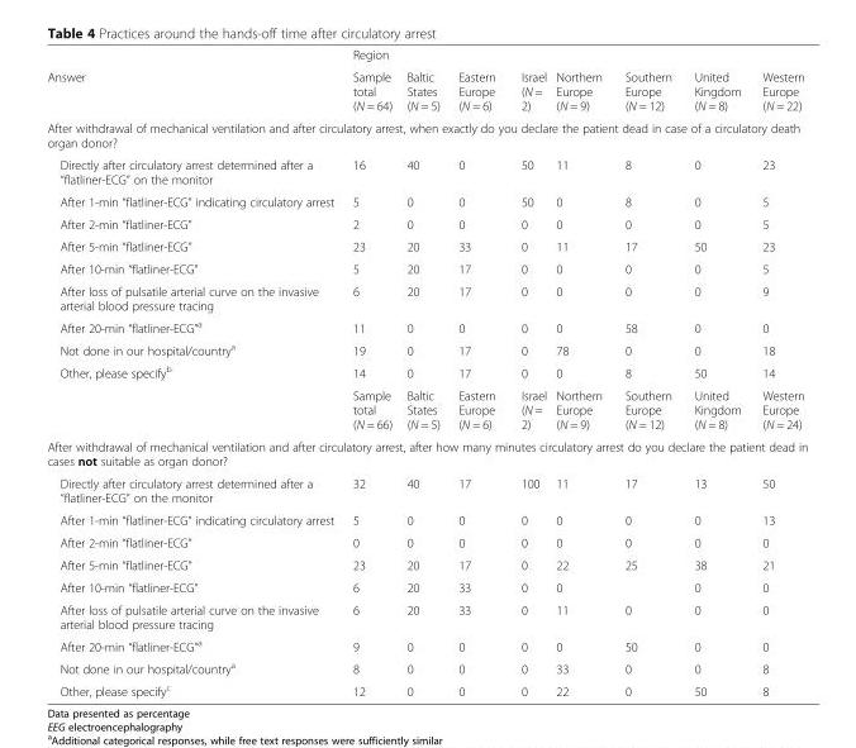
<table><thead><tr><td rowspan="2">Answer</td><td colspan="8">Region</td></tr><tr><td>Sample total (N = 64)</td><td>Baltic States (N = 5)</td><td>Eastern Europe (N = 6)</td><td>Israel (N = 2)</td><td>Northern Europe (N = 9)</td><td>Southern Europe (N = 12)</td><td>United Kingdom (N = 8)</td><td>Western Europe (N = 22)</td></tr></thead><tbody><tr><td colspan="9">After withdrawal of mechanical ventilation and after circulatory arrest, when exactly do you declare the patient dead in case of a circulatory death organ donor?</td></tr><tr><td>Directly after circulatory arrest determined after a “flatliner-ECG” on the monitor</td><td>16</td><td>40</td><td>0</td><td>50</td><td>11</td><td>8</td><td>0</td><td>23</td></tr><tr><td>After 1-min “flatliner-ECG” indicating circulatory arrest</td><td>5</td><td>0</td><td>0</td><td>50</td><td>0</td><td>8</td><td>0</td><td>5</td></tr><tr><td>After 2-min “flatliner-ECG”</td><td>2</td><td>0</td><td>0</td><td>0</td><td>0</td><td>0</td><td>0</td><td>5</td></tr><tr><td>After 5-min “flatliner-ECG”</td><td>23</td><td>20</td><td>33</td><td>0</td><td>11</td><td>17</td><td>50</td><td>23</td></tr><tr><td>After 10-min “flatliner-ECG”</td><td>5</td><td>20</td><td>17</td><td>0</td><td>0</td><td>0</td><td>0</td><td>5</td></tr><tr><td>After loss of pulsatile arterial curve on the invasive arterial blood pressure tracing</td><td>6</td><td>20</td><td>17</td><td>0</td><td>0</td><td>0</td><td>0</td><td>9</td></tr><tr><td>After 20-min “flatliner-ECG”<sup>a</sup></td><td>11</td><td>0</td><td>0</td><td>0</td><td>0</td><td>58</td><td>0</td><td>0</td></tr><tr><td>Not done in our hospital/country<sup>a</sup></td><td>19</td><td>0</td><td>17</td><td>0</td><td>78</td><td>0</td><td>0</td><td>18</td></tr><tr><td rowspan="2">Other, please specify<sup>b</sup></td><td>14</td><td>0</td><td>17</td><td>0</td><td>0</td><td>8</td><td>50</td><td>14</td></tr><tr><td>Sample total (N = 66)</td><td>Baltic States (N = 5)</td><td>Eastern Europe (N = 6)</td><td>Israel (N = 2)</td><td>Northern Europe (N = 9)</td><td>Southern Europe (N = 12)</td><td>United Kingdom (N = 8)</td><td>Western Europe (N = 24)</td></tr><tr><td colspan="9">After withdrawal of mechanical ventilation and after circulatory arrest, after how many minutes circulatory arrest do you declare the patient dead in cases not suitable as organ donor?</td></tr><tr><td>Directly after circulatory arrest determined after a “flatliner-ECG” on the monitor</td><td>32</td><td>40</td><td>17</td><td>100</td><td>11</td><td>17</td><td>13</td><td>50</td></tr><tr><td>After 1-min “flatliner-ECG” indicating circulatory arrest</td><td>5</td><td>0</td><td>0</td><td>0</td><td>0</td><td>0</td><td>0</td><td>13</td></tr><tr><td>After 2-min “flatliner-ECG”</td><td>0</td><td>0</td><td>0</td><td>0</td><td>0</td><td>0</td><td>0</td><td>0</td></tr><tr><td>After 5-min “flatliner-ECG”</td><td>23</td><td>20</td><td>17</td><td>0</td><td>22</td><td>25</td><td>38</td><td>21</td></tr><tr><td>After 10-min “flatliner-ECG”</td><td>6</td><td>20</td><td>33</td><td>0</td><td>0</td><td></td><td>0</td><td>0</td></tr><tr><td>After loss of pulsatile arterial curve on the invasive arterial blood pressure tracing</td><td>6</td><td>20</td><td>33</td><td>0</td><td>11</td><td>0</td><td>0</td><td>0</td></tr><tr><td>After 20-min “flatliner-ECG”<sup>a</sup></td><td>9</td><td>0</td><td>0</td><td>0</td><td>0</td><td>50</td><td>0</td><td>0</td></tr><tr><td>Not done in our hospital/country<sup>a</sup></td><td>8</td><td>0</td><td>0</td><td>0</td><td>33</td><td>0</td><td>0</td><td>8</td></tr><tr><td>Other, please specify<sup>c</sup></td><td>12</td><td>0</td><td>0</td><td>0</td><td>22</td><td>0</td><td>50</td><td>8</td></tr></tbody></table>